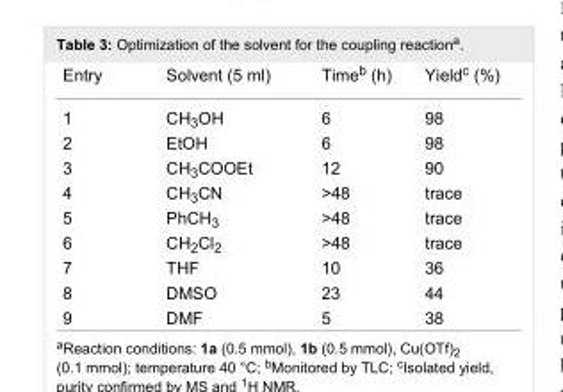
<table><tbody><tr><td>Entry</td><td>Solvent (5 ml)</td><td>Time<sup>b</sup> (h)</td><td>Yield<sup>c</sup> (%)</td></tr><tr><td>1</td><td>CH<sub>3</sub>OH</td><td>6</td><td>98</td></tr><tr><td>2</td><td>EtOH</td><td>6</td><td>98</td></tr><tr><td>3</td><td>CH<sub>3</sub>COOEt</td><td>12</td><td>90</td></tr><tr><td>4</td><td>CH<sub>3</sub>CN</td><td>&gt;48</td><td>trace</td></tr><tr><td>5</td><td>PhCH<sub>3</sub></td><td>&gt;48</td><td>trace</td></tr><tr><td>6</td><td>CH<sub>2</sub>Cl<sub>2</sub></td><td>&gt;48</td><td>trace</td></tr><tr><td>7</td><td>THF</td><td>10</td><td>36</td></tr><tr><td>8</td><td>DMSO</td><td>23</td><td>44</td></tr><tr><td>9</td><td>DMF</td><td>5</td><td>38</td></tr></tbody></table>